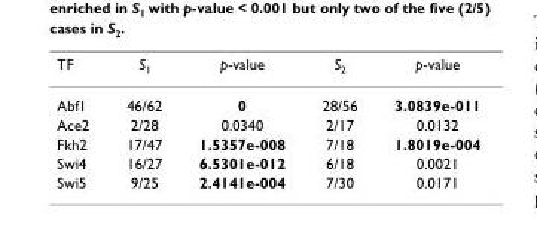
<table><thead><tr><td>TF</td><td>S<sub>1</sub></td><td>p-value</td><td>S<sub>2</sub></td><td>p-value</td></tr></thead><tbody><tr><td>Abf1</td><td>46/62</td><td>0</td><td>28/56</td><td>3.0839e-011</td></tr><tr><td>Ace2</td><td>2/28</td><td>0.0340</td><td>2/17</td><td>0.0132</td></tr><tr><td>Fkh2</td><td>17/47</td><td>1.5357e-008</td><td>7/18</td><td>1.8019e-004</td></tr><tr><td>Swi4</td><td>16/27</td><td>6.5301e-012</td><td>6/18</td><td>0.0021</td></tr><tr><td>Swi5</td><td>9/25</td><td>2.4141e-004</td><td>7/30</td><td>0.0171</td></tr></tbody></table>